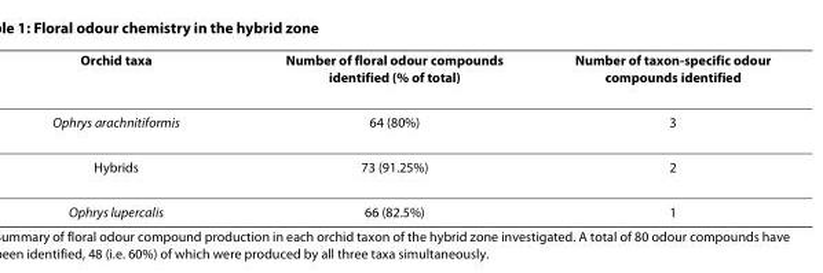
<table><thead><tr><td>Orchid taxa</td><td>Number of floral odour compounds identified (% of total)</td><td>Number of taxon-specific odour compounds identified</td></tr></thead><tbody><tr><td>Ophrys arachnitiformis</td><td>64 (80%)</td><td>3</td></tr><tr><td>Hybrids</td><td>73 (91.25%)</td><td>2</td></tr><tr><td>Ophrys lupercalis</td><td>66 (82.5%)</td><td>1</td></tr></tbody></table>